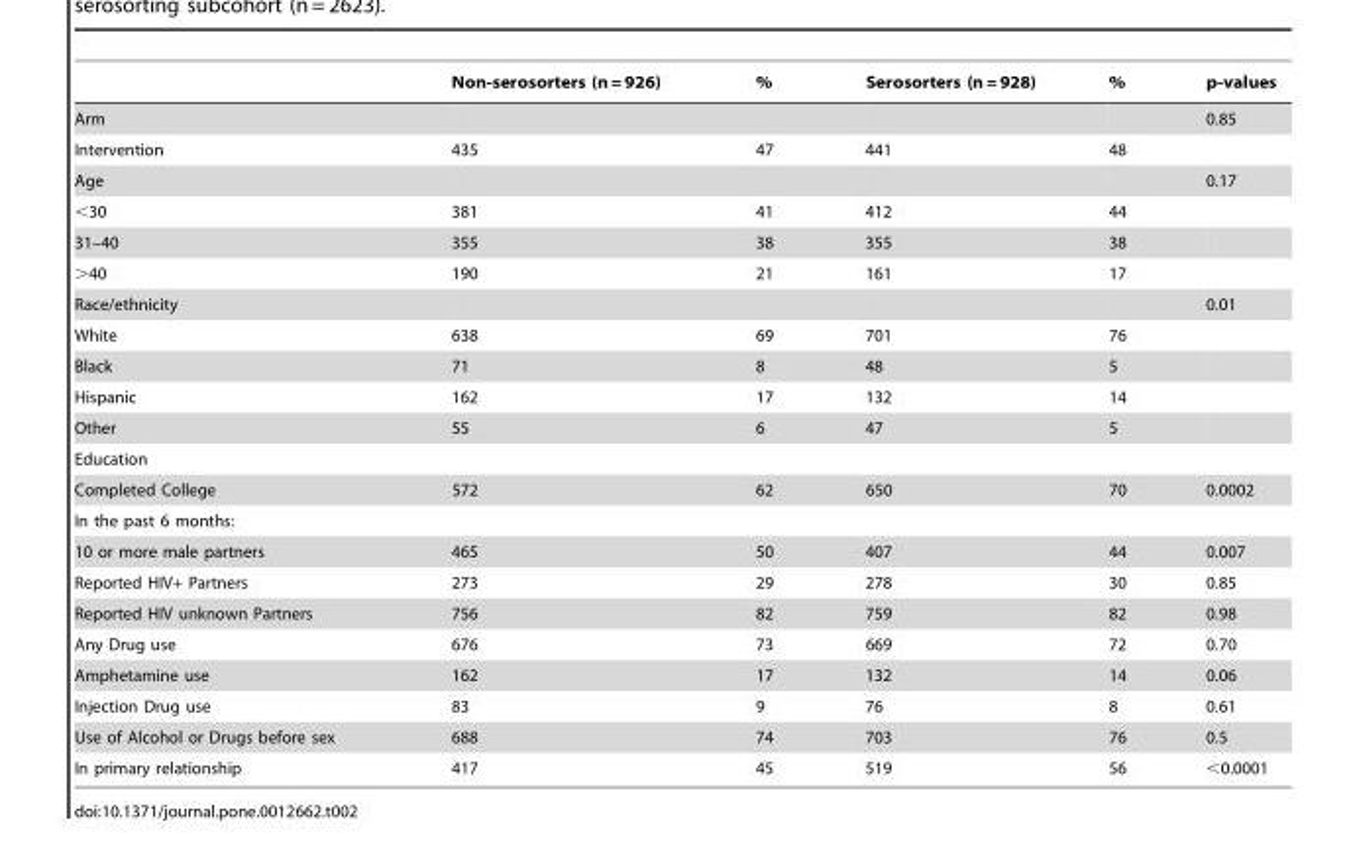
<table><thead><tr><td></td><td>Non-serosorters (n = 926)</td><td>%</td><td>Serosorters (n = 928)</td><td>%</td><td>p-values</td></tr></thead><tbody><tr><td>Arm</td><td></td><td></td><td></td><td></td><td>0.85</td></tr><tr><td>Intervention</td><td>435</td><td>47</td><td>441</td><td>48</td><td></td></tr><tr><td>Age</td><td></td><td></td><td></td><td></td><td>0.17</td></tr><tr><td>&lt;30</td><td>381</td><td>41</td><td>412</td><td>44</td><td></td></tr><tr><td>31–40</td><td>355</td><td>38</td><td>355</td><td>38</td><td></td></tr><tr><td>&gt;40</td><td>190</td><td>21</td><td>161</td><td>17</td><td></td></tr><tr><td>Race/ethnicity</td><td></td><td></td><td></td><td></td><td>0.01</td></tr><tr><td>White</td><td>638</td><td>69</td><td>701</td><td>76</td><td></td></tr><tr><td>Black</td><td>71</td><td>8</td><td>48</td><td>5</td><td></td></tr><tr><td>Hispanic</td><td>162</td><td>17</td><td>132</td><td>14</td><td></td></tr><tr><td>Other</td><td>55</td><td>6</td><td>47</td><td>5</td><td></td></tr><tr><td colspan="6">Education</td></tr><tr><td>Completed College</td><td>572</td><td>62</td><td>650</td><td>70</td><td>0.0002</td></tr><tr><td colspan="6">In the past 6 months:</td></tr><tr><td>10 or more male partners</td><td>465</td><td>50</td><td>407</td><td>44</td><td>0.007</td></tr><tr><td>Reported HIV+ Partners</td><td>273</td><td>29</td><td>278</td><td>30</td><td>0.85</td></tr><tr><td>Reported HIV unknown Partners</td><td>756</td><td>82</td><td>759</td><td>82</td><td>0.98</td></tr><tr><td>Any Drug use</td><td>676</td><td>73</td><td>669</td><td>72</td><td>0.70</td></tr><tr><td>Amphetamine use</td><td>162</td><td>17</td><td>132</td><td>14</td><td>0.06</td></tr><tr><td>Injection Drug use</td><td>83</td><td>9</td><td>76</td><td>8</td><td>0.61</td></tr><tr><td>Use of Alcohol or Drugs before sex</td><td>688</td><td>74</td><td>703</td><td>76</td><td>0.5</td></tr><tr><td>In primary relationship</td><td>417</td><td>45</td><td>519</td><td>56</td><td>&lt;0.0001</td></tr></tbody></table>